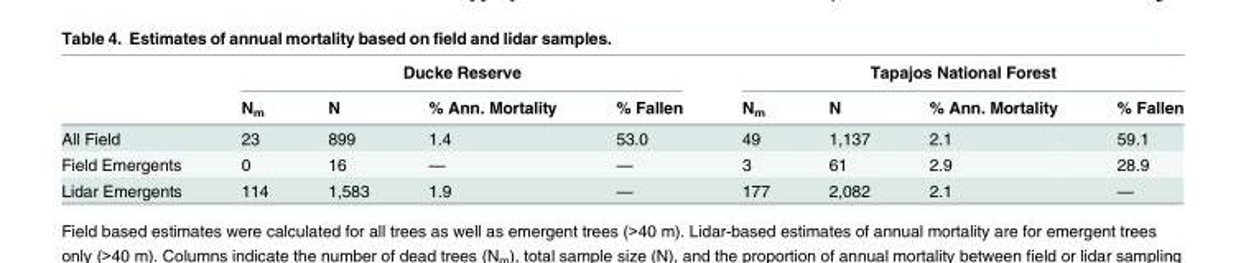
<table><thead><tr><td rowspan="2"></td><td colspan="4">Ducke Reserve</td><td colspan="4">Tapajos National Forest</td></tr><tr><td>N<sub>m</sub></td><td>N</td><td>% Ann. Mortality</td><td>% Fallen</td><td>N<sub>m</sub></td><td>N</td><td>% Ann. Mortality</td><td>% Fallen</td></tr></thead><tbody><tr><td>All Field</td><td>23</td><td>899</td><td>1.4</td><td>53.0</td><td>49</td><td>1,137</td><td>2.1</td><td>59.1</td></tr><tr><td>Field Emergents</td><td>0</td><td>16</td><td>—</td><td>—</td><td>3</td><td>61</td><td>2.9</td><td>28.9</td></tr><tr><td>Lidar Emergents</td><td>114</td><td>1,583</td><td>1.9</td><td>—</td><td>177</td><td>2,082</td><td>2.1</td><td>—</td></tr></tbody></table>